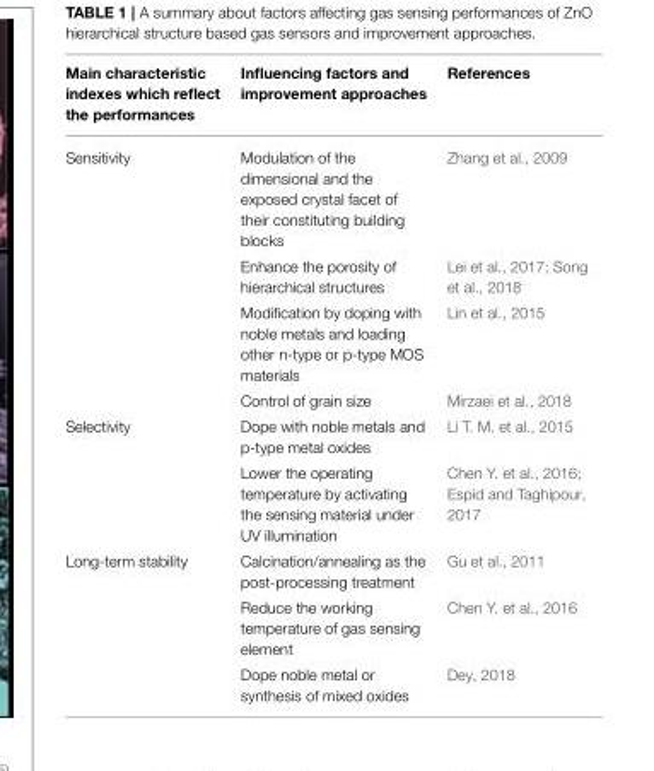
<table><thead><tr><td>Main characteristic indexes which reflect the performances</td><td>Influencing factors and improvement approaches</td><td>References</td></tr></thead><tbody><tr><td rowspan="4">Sensitivity</td><td>Modulation of the dimensional and the exposed crystal facet of their constituting building blocks</td><td>Zhang et al., 2009</td></tr><tr><td>Enhance the porosity of hierarchical structures</td><td>Lei et al., 2017; Song et al., 2018</td></tr><tr><td>Modification by doping with noble metals and loading other n-type or p-type MOS materials</td><td>Lin et al., 2015</td></tr><tr><td>Control of grain size</td><td>Mirzaei et al., 2018</td></tr><tr><td rowspan="2">Selectivity</td><td>Dope with noble metals and p-type metal oxides</td><td>Li T. M. et al., 2015</td></tr><tr><td>Lower the operating temperature by activating the sensing material under UV illumination</td><td>Chen Y. et al., 2016; Espid and Taghipour, 2017</td></tr><tr><td rowspan="3">Long-term stability</td><td>Calcination/annealing as the post-processing treatment</td><td>Gu et al., 2011</td></tr><tr><td>Reduce the working temperature of gas sensing element</td><td>Chen Y. et al., 2016</td></tr><tr><td>Dope noble metal or synthesis of mixed oxides</td><td>Dey, 2018</td></tr></tbody></table>